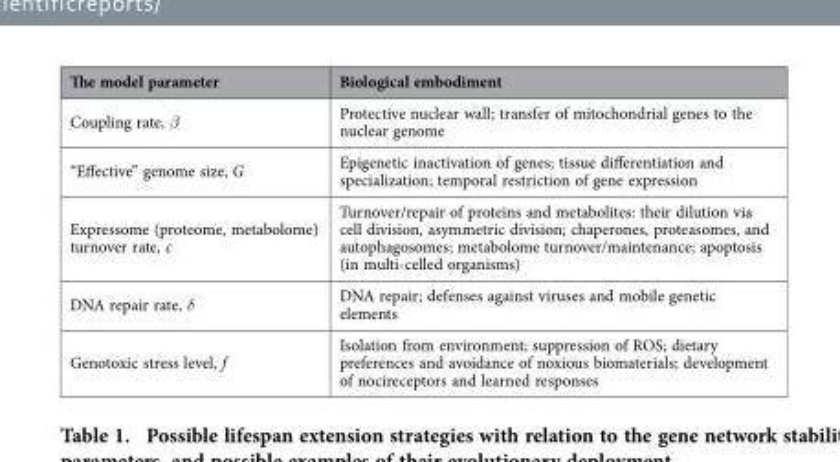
<table><thead><tr><td>The model parameter</td><td>Biological embodiment</td></tr></thead><tbody><tr><td>Coupling rate, β</td><td>Protective nuclear wall; transfer of mitochondrial genes to the nuclear genome</td></tr><tr><td>“Effective” genome size, G</td><td>Epigenetic inactivation of genes; tissue differentiation and specialization; temporal restriction of gene expression</td></tr><tr><td>Expressome (proteome, metabolome) turnover rate, c</td><td>Turnover/repair of proteins and metabolites: their dilution via cell division, asymmetric division; chaperones, proteasomes, and autophagosomes; metabolome turnover/maintenance; apoptosis (in multi-celled organisms)</td></tr><tr><td>DNA repair rate, δ</td><td>DNA repair; defenses against viruses and mobile genetic elements</td></tr><tr><td>Genotoxic stress level, f</td><td>Isolation from environment; suppression of ROS; dietary preferences and avoidance of noxious biomaterials; development of nocireceptors and learned responses</td></tr></tbody></table>